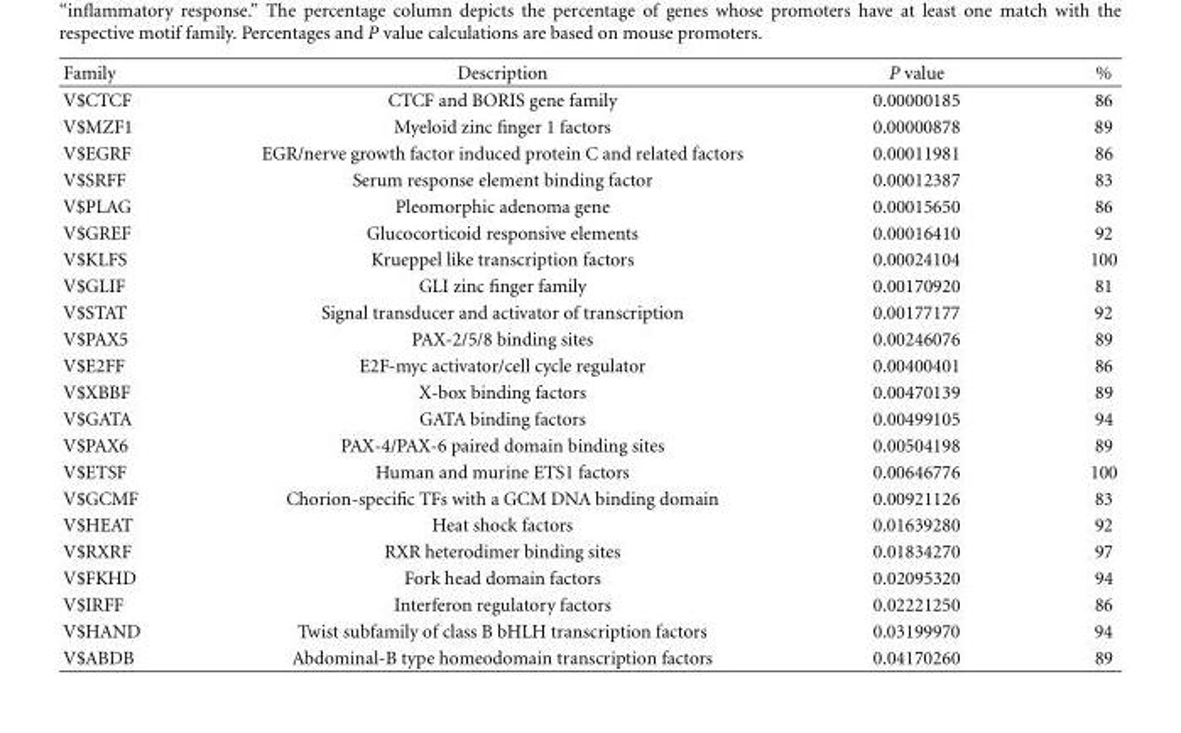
<table><thead><tr><td>Family</td><td>Description</td><td>P value</td><td>%</td></tr></thead><tbody><tr><td>V$CTCF</td><td>CTCF and BORIS gene family</td><td>0.00000185</td><td>86</td></tr><tr><td>V$MZF1</td><td>Myeloid zinc finger 1 factors</td><td>0.00000878</td><td>89</td></tr><tr><td>V$EGRF</td><td>EGR/nerve growth factor induced protein C and related factors</td><td>0.00011981</td><td>86</td></tr><tr><td>V$SRFF</td><td>Serum response element binding factor</td><td>0.00012387</td><td>83</td></tr><tr><td>V$PLAG</td><td>Pleomorphic adenoma gene</td><td>0.00015650</td><td>86</td></tr><tr><td>V$GREF</td><td>Glucocorticoid responsive elements</td><td>0.00016410</td><td>92</td></tr><tr><td>V$KLFS</td><td>Krueppel like transcription factors</td><td>0.00024104</td><td>100</td></tr><tr><td>V$GLIF</td><td>GLI zinc finger family</td><td>0.00170920</td><td>81</td></tr><tr><td>V$STAT</td><td>Signal transducer and activator of transcription</td><td>0.00177177</td><td>92</td></tr><tr><td>V$PAX5</td><td>PAX-2/5/8 binding sites</td><td>0.00246076</td><td>89</td></tr><tr><td>V$E2FF</td><td>E2F-myc activator/cell cycle regulator</td><td>0.00400401</td><td>86</td></tr><tr><td>V$XBBF</td><td>X-box binding factors</td><td>0.00470139</td><td>89</td></tr><tr><td>V$GATA</td><td>GATA binding factors</td><td>0.00499105</td><td>94</td></tr><tr><td>V$PAX6</td><td>PAX-4/PAX-6 paired domain binding sites</td><td>0.00504198</td><td>89</td></tr><tr><td>V$ETSF</td><td>Human and murine ETS1 factors</td><td>0.00646776</td><td>100</td></tr><tr><td>V$GCMF</td><td>Chorion-specific TFs with a GCM DNA binding domain</td><td>0.00921126</td><td>83</td></tr><tr><td>V$HEAT</td><td>Heat shock factors</td><td>0.01639280</td><td>92</td></tr><tr><td>V$RXRF</td><td>RXR heterodimer binding sites</td><td>0.01834270</td><td>97</td></tr><tr><td>V$FKHD</td><td>Fork head domain factors</td><td>0.02095320</td><td>94</td></tr><tr><td>V$IRFF</td><td>Interferon regulatory factors</td><td>0.02221250</td><td>86</td></tr><tr><td>V$HAND</td><td>Twist subfamily of class B bHLH transcription factors</td><td>0.03199970</td><td>94</td></tr><tr><td>V$ABDB</td><td>Abdominal-B type homeodomain transcription factors</td><td>0.04170260</td><td>89</td></tr></tbody></table>